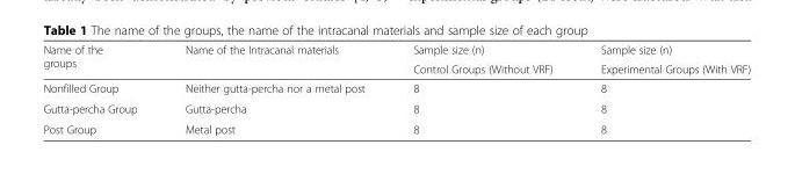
<table><thead><tr><td rowspan="2">Name of the groups</td><td rowspan="2">Name of the Intracanal materials</td><td rowspan="2">Sample size (n) Control Groups (Without VRF)</td><td rowspan="2">Sample size (n) Experimental Groups (With VRF)</td></tr><tr></tr></thead><tbody><tr><td>Nonfilled Group</td><td>Neither gutta-percha nor a metal post</td><td>8</td><td>8</td></tr><tr><td>Gutta-percha Group</td><td>Gutta-percha</td><td>8</td><td>8</td></tr><tr><td>Post Group</td><td>Metal post</td><td>8</td><td>8</td></tr></tbody></table>